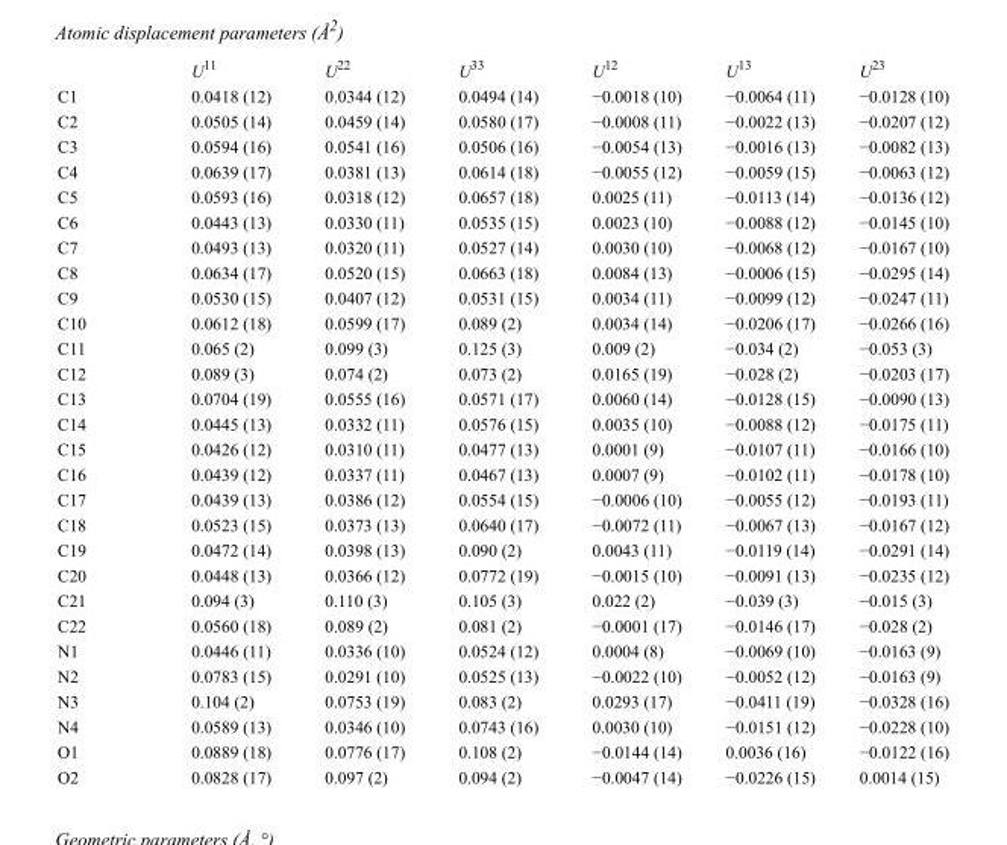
<table><thead><tr><td></td><td>U<sup>11</sup></td><td>U<sup>22</sup></td><td>U<sup>33</sup></td><td>U<sup>12</sup></td><td>U<sup>13</sup></td><td>U<sup>23</sup></td></tr></thead><tbody><tr><td>C1</td><td>0.0418 (12)</td><td>0.0344 (12)</td><td>0.0494 (14)</td><td>−0.0018 (10)</td><td>−0.0064 (11)</td><td>−0.0128 (10)</td></tr><tr><td>C2</td><td>0.0505 (14)</td><td>0.0459 (14)</td><td>0.0580 (17)</td><td>−0.0008 (11)</td><td>−0.0022 (13)</td><td>−0.0207 (12)</td></tr><tr><td>C3</td><td>0.0594 (16)</td><td>0.0541 (16)</td><td>0.0506 (16)</td><td>−0.0054 (13)</td><td>−0.0016 (13)</td><td>−0.0082 (13)</td></tr><tr><td>C4</td><td>0.0639 (17)</td><td>0.0381 (13)</td><td>0.0614 (18)</td><td>−0.0055 (12)</td><td>−0.0059 (15)</td><td>−0.0063 (12)</td></tr><tr><td>C5</td><td>0.0593 (16)</td><td>0.0318 (12)</td><td>0.0657 (18)</td><td>0.0025 (11)</td><td>−0.0113 (14)</td><td>−0.0136 (12)</td></tr><tr><td>C6</td><td>0.0443 (13)</td><td>0.0330 (11)</td><td>0.0535 (15)</td><td>0.0023 (10)</td><td>−0.0088 (12)</td><td>−0.0145 (10)</td></tr><tr><td>C7</td><td>0.0493 (13)</td><td>0.0320 (11)</td><td>0.0527 (14)</td><td>0.0030 (10)</td><td>−0.0068 (12)</td><td>−0.0167 (10)</td></tr><tr><td>C8</td><td>0.0634 (17)</td><td>0.0520 (15)</td><td>0.0663 (18)</td><td>0.0084 (13)</td><td>−0.0006 (15)</td><td>−0.0295 (14)</td></tr><tr><td>C9</td><td>0.0530 (15)</td><td>0.0407 (12)</td><td>0.0531 (15)</td><td>0.0034 (11)</td><td>−0.0099 (12)</td><td>−0.0247 (11)</td></tr><tr><td>C10</td><td>0.0612 (18)</td><td>0.0599 (17)</td><td>0.089 (2)</td><td>0.0034 (14)</td><td>−0.0206 (17)</td><td>−0.0266 (16)</td></tr><tr><td>C11</td><td>0.065 (2)</td><td>0.099 (3)</td><td>0.125 (3)</td><td>0.009 (2)</td><td>−0.034 (2)</td><td>−0.053 (3)</td></tr><tr><td>C12</td><td>0.089 (3)</td><td>0.074 (2)</td><td>0.073 (2)</td><td>0.0165 (19)</td><td>−0.028 (2)</td><td>−0.0203 (17)</td></tr><tr><td>C13</td><td>0.0704 (19)</td><td>0.0555 (16)</td><td>0.0571 (17)</td><td>0.0060 (14)</td><td>−0.0128 (15)</td><td>−0.0090 (13)</td></tr><tr><td>C14</td><td>0.0445 (13)</td><td>0.0332 (11)</td><td>0.0576 (15)</td><td>0.0035 (10)</td><td>−0.0088 (12)</td><td>−0.0175 (11)</td></tr><tr><td>C15</td><td>0.0426 (12)</td><td>0.0310 (11)</td><td>0.0477 (13)</td><td>0.0001 (9)</td><td>−0.0107 (11)</td><td>−0.0166 (10)</td></tr><tr><td>C16</td><td>0.0439 (12)</td><td>0.0337 (11)</td><td>0.0467 (13)</td><td>0.0007 (9)</td><td>−0.0102 (11)</td><td>−0.0178 (10)</td></tr><tr><td>C17</td><td>0.0439 (13)</td><td>0.0386 (12)</td><td>0.0554 (15)</td><td>−0.0006 (10)</td><td>−0.0055 (12)</td><td>−0.0193 (11)</td></tr><tr><td>C18</td><td>0.0523 (15)</td><td>0.0373 (13)</td><td>0.0640 (17)</td><td>−0.0072 (11)</td><td>−0.0067 (13)</td><td>−0.0167 (12)</td></tr><tr><td>C19</td><td>0.0472 (14)</td><td>0.0398 (13)</td><td>0.090 (2)</td><td>0.0043 (11)</td><td>−0.0119 (14)</td><td>−0.0291 (14)</td></tr><tr><td>C20</td><td>0.0448 (13)</td><td>0.0366 (12)</td><td>0.0772 (19)</td><td>−0.0015 (10)</td><td>−0.0091 (13)</td><td>−0.0235 (12)</td></tr><tr><td>C21</td><td>0.094 (3)</td><td>0.110 (3)</td><td>0.105 (3)</td><td>0.022 (2)</td><td>−0.039 (3)</td><td>−0.015 (3)</td></tr><tr><td>C22</td><td>0.0560 (18)</td><td>0.089 (2)</td><td>0.081 (2)</td><td>−0.0001 (17)</td><td>−0.0146 (17)</td><td>−0.028 (2)</td></tr><tr><td>N1</td><td>0.0446 (11)</td><td>0.0336 (10)</td><td>0.0524 (12)</td><td>0.0004 (8)</td><td>−0.0069 (10)</td><td>−0.0163 (9)</td></tr><tr><td>N2</td><td>0.0783 (15)</td><td>0.0291 (10)</td><td>0.0525 (13)</td><td>−0.0022 (10)</td><td>−0.0052 (12)</td><td>−0.0163 (9)</td></tr><tr><td>N3</td><td>0.104 (2)</td><td>0.0753 (19)</td><td>0.083 (2)</td><td>0.0293 (17)</td><td>−0.0411 (19)</td><td>−0.0328 (16)</td></tr><tr><td>N4</td><td>0.0589 (13)</td><td>0.0346 (10)</td><td>0.0743 (16)</td><td>0.0030 (10)</td><td>−0.0151 (12)</td><td>−0.0228 (10)</td></tr><tr><td>O1</td><td>0.0889 (18)</td><td>0.0776 (17)</td><td>0.108 (2)</td><td>−0.0144 (14)</td><td>0.0036 (16)</td><td>−0.0122 (16)</td></tr><tr><td>O2</td><td>0.0828 (17)</td><td>0.097 (2)</td><td>0.094 (2)</td><td>−0.0047 (14)</td><td>−0.0226 (15)</td><td>0.0014 (15)</td></tr></tbody></table>